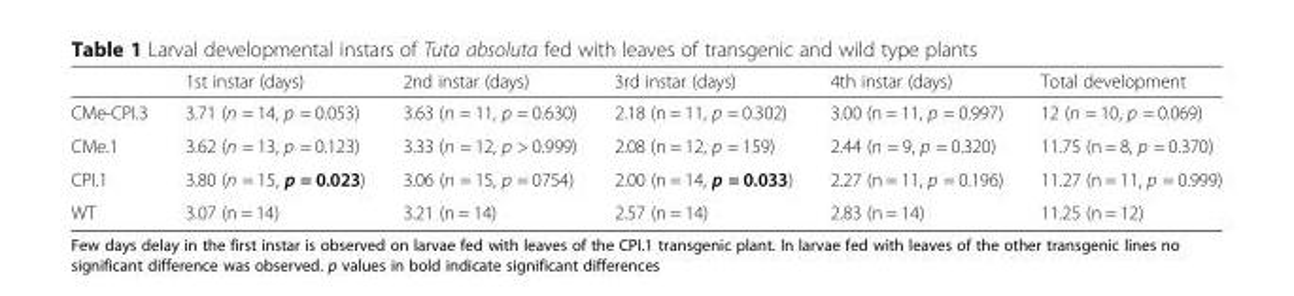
<table><thead><tr><td></td><td>1st instar (days)</td><td>2nd instar (days)</td><td>3rd instar (days)</td><td>4th instar (days)</td><td>Total development</td></tr></thead><tbody><tr><td>CMe-CPI.3</td><td>3.71 (n = 14, p = 0.053)</td><td>3.63 (n = 11, p = 0.630)</td><td>2.18 (n = 11, p = 0.302)</td><td>3.00 (n = 11, p = 0.997)</td><td>12 (n = 10, p = 0.069)</td></tr><tr><td>CMe.1</td><td>3.62 (n = 13, p = 0.123)</td><td>3.33 (n = 12, p &gt; 0.999)</td><td>2.08 (n = 12, p = 159)</td><td>2.44 (n = 9, p = 0.320)</td><td>11.75 (n = 8, p = 0.370)</td></tr><tr><td>CPI.1</td><td>3.80 (n = 15, p = 0.023)</td><td>3.06 (n = 15, p = 0754)</td><td>2.00 (n = 14, p = 0.033)</td><td>2.27 (n = 11, p = 0.196)</td><td>11.27 (n = 11, p = 0.999)</td></tr><tr><td>WT</td><td>3.07 (n = 14)</td><td>3.21 (n = 14)</td><td>2.57 (n = 14)</td><td>2.83 (n = 14)</td><td>11.25 (n = 12)</td></tr></tbody></table>